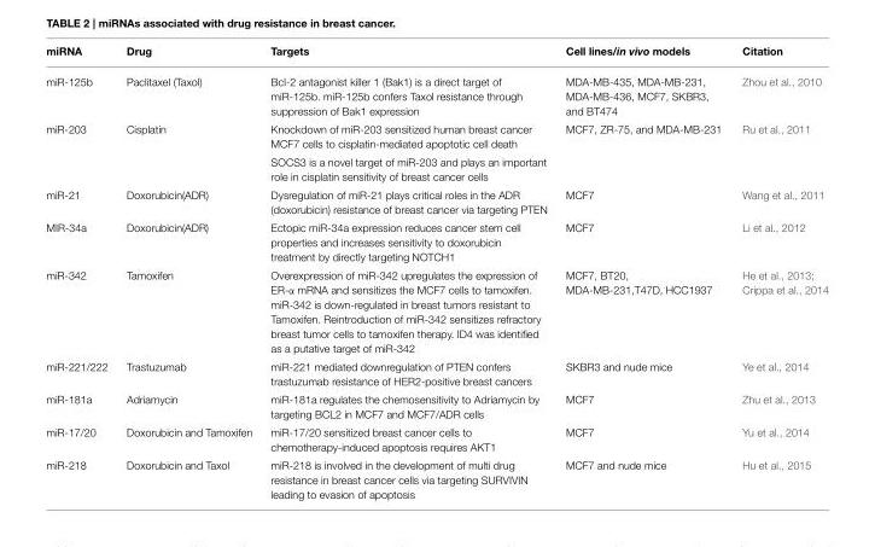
<table><thead><tr><td>miRNA</td><td>Drug</td><td>Targets</td><td>Cell lines/in vivo models</td><td>Citation</td></tr></thead><tbody><tr><td>miR-125b</td><td>Paclitaxel (Taxol)</td><td>Bcl-2 antagonist killer 1 (Bak1) is a direct target of miR-125b. miR-125b confers Taxol resistance through suppression of Bak1 expression</td><td>MDA-MB-435, MDA-MB-231, MDA-MB-436, MCF7, SKBR3, and BT474</td><td>Zhou et al., 2010</td></tr><tr><td rowspan="2">miR-203</td><td>Cisplatin</td><td>Knockdown of miR-203 sensitized human breast cancer MCF7 cells to cisplatin-mediated apoptotic cell death</td><td>MCF7, ZR-75, and MDA-MB-231</td><td>Ru et al., 2011</td></tr><tr><td></td><td>SOCS3 is a novel target of miR-203 and plays an important role in cisplatin sensitivity of breast cancer cells</td><td></td><td></td></tr><tr><td>miR-21</td><td>Doxorubicin(ADR)</td><td>Dysregulation of miR-21 plays critical roles in the ADR (doxorubicin) resistance of breast cancer via targeting PTEN</td><td>MCF7</td><td>Wang et al., 2011</td></tr><tr><td>MIR-34a</td><td>Doxorubicin(ADR)</td><td>Ectopic miR-34a expression reduces cancer stem cell properties and increases sensitivity to doxorubicin treatment by directly targeting NOTCH1</td><td>MCF7</td><td>Li et al., 2012</td></tr><tr><td>miR-342</td><td>Tamoxifen</td><td>Overexpression of miR-342 upregulates the expression of ER-α mRNA and sensitizes the MCF7 cells to tamoxifen. miR-342 is down-regulated in breast tumors resistant to Tamoxifen. Reintroduction of miR-342 sensitizes refractory breast tumor cells to tamoxifen therapy. ID4 was identified as a putative target of miR-342</td><td>MCF7, BT20, MDA-MB-231,T47D, HCC1937</td><td>He et al., 2013; Crippa et al., 2014</td></tr><tr><td>miR-221/222</td><td>Trastuzumab</td><td>miR-221 mediated downregulation of PTEN confers trastuzumab resistance of HER2-positive breast cancers</td><td>SKBR3 and nude mice</td><td>Ye et al., 2014</td></tr><tr><td>miR-181a</td><td>Adriamycin</td><td>miR-181a regulates the chemosensitivity to Adriamycin by targeting BCL2 in MCF7 and MCF7/ADR cells</td><td>MCF7</td><td>Zhu et al., 2013</td></tr><tr><td>miR-17/20</td><td>Doxorubicin and Tamoxifen</td><td>miR-17/20 sensitized breast cancer cells to chemotherapy-induced apoptosis requires AKT1</td><td>MCF7</td><td>Yu et al., 2014</td></tr><tr><td>miR-218</td><td>Doxorubicin and Taxol</td><td>miR-218 is involved in the development of multi drug resistance in breast cancer cells via targeting SURVIVIN leading to evasion of apoptosis</td><td>MCF7 and nude mice</td><td>Hu et al., 2015</td></tr></tbody></table>